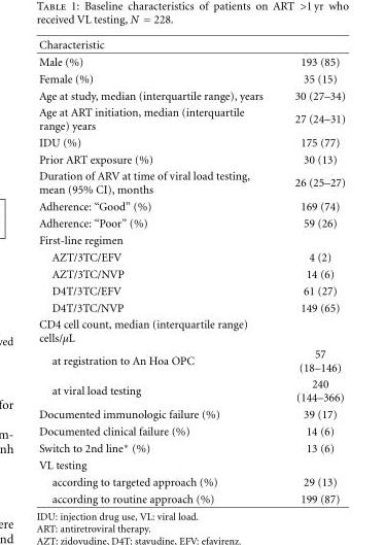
<table><thead><tr><td>Characteristic</td><td></td></tr></thead><tbody><tr><td>Male (%)</td><td>193 (85)</td></tr><tr><td>Female (%)</td><td>35 (15)</td></tr><tr><td>Age at study, median (interquartile range), years</td><td>30 (27–34)</td></tr><tr><td>Age at ART initiation, median (interquartile range) years</td><td>27 (24–31)</td></tr><tr><td>IDU (%)</td><td>175 (77)</td></tr><tr><td>Prior ART exposure (%)</td><td>30 (13)</td></tr><tr><td>Duration of ARV at time of viral load testing, mean (95% CI), months</td><td>26 (25–27)</td></tr><tr><td>Adherence: “Good” (%)</td><td>169 (74)</td></tr><tr><td>Adherence: “Poor” (%)</td><td>59 (26)</td></tr><tr><td colspan="2">First-line regimen</td></tr><tr><td>AZT/3TC/EFV</td><td>4 (2)</td></tr><tr><td>AZT/3TC/NVP</td><td>14 (6)</td></tr><tr><td>D4T/3TC/EFV</td><td>61 (27)</td></tr><tr><td>D4T/3TC/NVP</td><td>149 (65)</td></tr><tr><td colspan="2">CD4 cell count, median (interquartile range) cells/μL</td></tr><tr><td>at registration to An Hoa OPC</td><td>57 (18–146)</td></tr><tr><td>at viral load testing</td><td>240 (144–366)</td></tr><tr><td>Documented immunologic failure (%)</td><td>39 (17)</td></tr><tr><td>Documented clinical failure (%)</td><td>14 (6)</td></tr><tr><td>Switch to 2nd line∗ (%)</td><td>13 (6)</td></tr><tr><td colspan="2">VL testing</td></tr><tr><td>according to targeted approach (%)</td><td>29 (13)</td></tr><tr><td>according to routine approach (%)</td><td>199 (87)</td></tr></tbody></table>